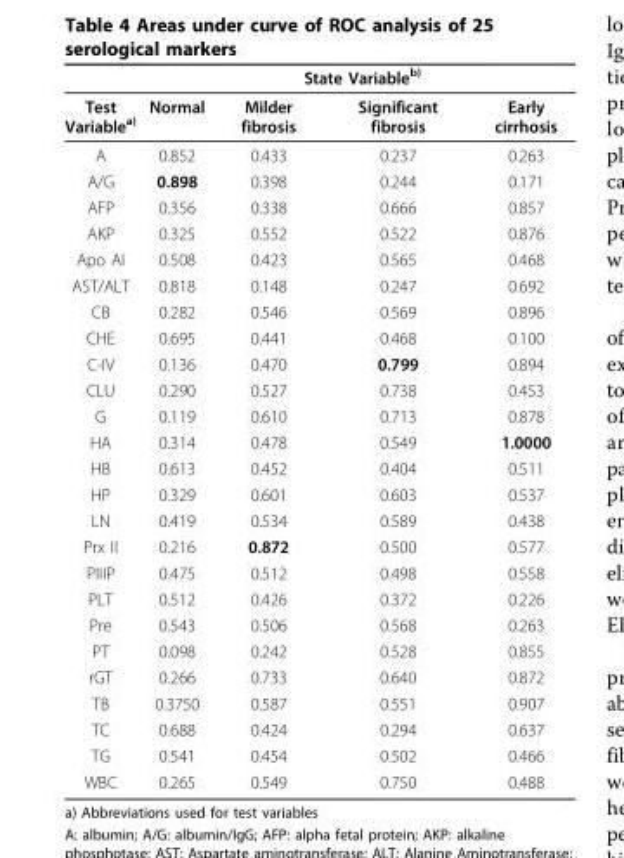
<table><thead><tr><td rowspan="2">Test Variable<sup>a)</sup></td><td colspan="4">State Variable<sup>b)</sup></td></tr><tr><td>Normal</td><td>Milder fibrosis</td><td>Significant fibrosis</td><td>Early cirrhosis</td></tr></thead><tbody><tr><td>A</td><td>0.852</td><td>0.433</td><td>0.237</td><td>0.263</td></tr><tr><td>A/G</td><td>0.898</td><td>0.398</td><td>0.244</td><td>0.171</td></tr><tr><td>AFP</td><td>0.356</td><td>0.338</td><td>0.666</td><td>0.857</td></tr><tr><td>AKP</td><td>0.325</td><td>0.552</td><td>0.522</td><td>0.876</td></tr><tr><td>Apo AI</td><td>0.508</td><td>0.423</td><td>0.565</td><td>0.468</td></tr><tr><td>AST/ALT</td><td>0.818</td><td>0.148</td><td>0.247</td><td>0.692</td></tr><tr><td>CB</td><td>0.282</td><td>0.546</td><td>0.569</td><td>0.896</td></tr><tr><td>CHE</td><td>0.695</td><td>0.441</td><td>0.468</td><td>0.100</td></tr><tr><td>C-IV</td><td>0.136</td><td>0.470</td><td>0.799</td><td>0.894</td></tr><tr><td>CLU</td><td>0.290</td><td>0.527</td><td>0.738</td><td>0.453</td></tr><tr><td>G</td><td>0.119</td><td>0.610</td><td>0.713</td><td>0.878</td></tr><tr><td>HA</td><td>0.314</td><td>0.478</td><td>0.549</td><td>1.0000</td></tr><tr><td>HB</td><td>0.613</td><td>0.452</td><td>0.404</td><td>0.511</td></tr><tr><td>HP</td><td>0.329</td><td>0.601</td><td>0.603</td><td>0.537</td></tr><tr><td>LN</td><td>0.419</td><td>0.534</td><td>0.589</td><td>0.438</td></tr><tr><td>Prx II</td><td>0.216</td><td>0.872</td><td>0.500</td><td>0.577</td></tr><tr><td>PIIIP</td><td>0.475</td><td>0.512</td><td>0.498</td><td>0.558</td></tr><tr><td>PLT</td><td>0.512</td><td>0.426</td><td>0.372</td><td>0.226</td></tr><tr><td>Pre</td><td>0.543</td><td>0.506</td><td>0.568</td><td>0.263</td></tr><tr><td>PT</td><td>0.098</td><td>0.242</td><td>0.528</td><td>0.855</td></tr><tr><td>rGT</td><td>0.266</td><td>0.733</td><td>0.640</td><td>0.872</td></tr><tr><td>TB</td><td>0.3750</td><td>0.587</td><td>0.551</td><td>0.907</td></tr><tr><td>TC</td><td>0.688</td><td>0.424</td><td>0.294</td><td>0.637</td></tr><tr><td>TG</td><td>0.541</td><td>0.454</td><td>0.502</td><td>0.466</td></tr><tr><td>WBC</td><td>0.265</td><td>0.549</td><td>0.750</td><td>0.488</td></tr></tbody></table>